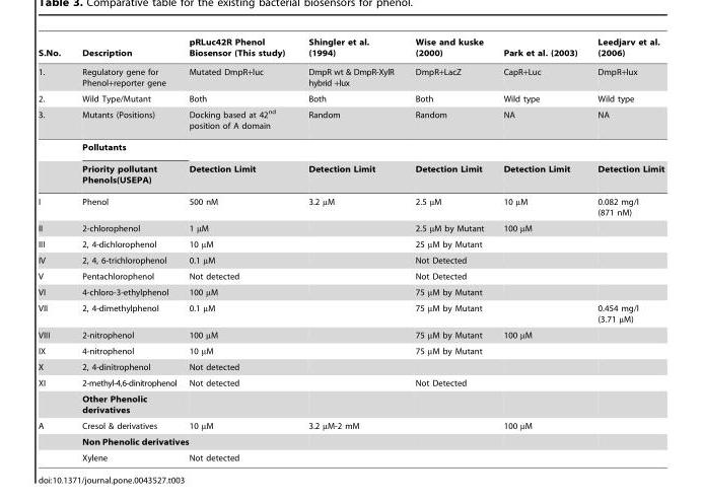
<table><thead><tr><td>S.No.</td><td>Description</td><td>pRLuc42R Phenol Biosensor (This study)</td><td>Shingler et al. (1994)</td><td>Wise and kuske (2000)</td><td>Park et al. (2003)</td><td>Leedjarv et al. (2006)</td></tr></thead><tbody><tr><td>1.</td><td>Regulatory gene for Phenol+reporter gene</td><td>Mutated DmpR+luc</td><td>DmpR wt &amp; DmpR-XylR hybrid +lux</td><td>DmpR+LacZ</td><td>CapR+Luc</td><td>DmpR+lux</td></tr><tr><td>2.</td><td>Wild Type/Mutant</td><td>Both</td><td>Both</td><td>Both</td><td>Wild type</td><td>Wild type</td></tr><tr><td rowspan="3">3.</td><td>Mutants (Positions)</td><td>Docking based at 42<sup>nd</sup> position of A domain</td><td>Random</td><td>Random</td><td>NA</td><td>NA</td></tr><tr><td>Pollutants</td><td></td><td></td><td></td><td></td><td></td></tr><tr><td>Priority pollutant Phenols(USEPA)</td><td>Detection Limit</td><td>Detection Limit</td><td>Detection Limit</td><td>Detection Limit</td><td>Detection Limit</td></tr><tr><td>I</td><td>Phenol</td><td>500 nM</td><td>3.2 µM</td><td>2.5 µM</td><td>10 µM</td><td>0.082 mg/l (871 nM)</td></tr><tr><td>II</td><td>2-chlorophenol</td><td>1 µM</td><td></td><td>2.5 µM by Mutant</td><td>100 µM</td><td></td></tr><tr><td>III</td><td>2, 4-dichlorophenol</td><td>10 µM</td><td></td><td>25 µM by Mutant</td><td></td><td></td></tr><tr><td>IV</td><td>2, 4, 6-trichlorophenol</td><td>0.1 µM</td><td></td><td>Not Detected</td><td></td><td></td></tr><tr><td>V</td><td>Pentachlorophenol</td><td>Not detected</td><td></td><td>Not Detected</td><td></td><td></td></tr><tr><td>VI</td><td>4-chloro-3-ethylphenol</td><td>100 µM</td><td></td><td>75 µM by Mutant</td><td></td><td></td></tr><tr><td>VII</td><td>2, 4-dimethylphenol</td><td>0.1 µM</td><td></td><td>75 µM by Mutant</td><td></td><td>0.454 mg/l (3.71 µM)</td></tr><tr><td>VIII</td><td>2-nitrophenol</td><td>100 µM</td><td></td><td>75 µM by Mutant</td><td>100 µM</td><td></td></tr><tr><td>IX</td><td>4-nitrophenol</td><td>10 µM</td><td></td><td>75 µM by Mutant</td><td></td><td></td></tr><tr><td>X</td><td>2, 4-dinitrophenol</td><td>Not detected</td><td></td><td></td><td></td><td></td></tr><tr><td rowspan="2">XI</td><td>2-methyl-4,6-dinitrophenol</td><td>Not detected</td><td></td><td>Not Detected</td><td></td><td></td></tr><tr><td>Other Phenolic derivatives</td><td></td><td></td><td></td><td></td><td></td></tr><tr><td rowspan="3">A</td><td>Cresol &amp; derivatives</td><td>10 µM</td><td>3.2 µM-2 mM</td><td></td><td>100 µM</td><td></td></tr><tr><td>Non Phenolic derivatives</td><td></td><td></td><td></td><td></td><td></td></tr><tr><td>Xylene</td><td>Not detected</td><td></td><td></td><td></td><td></td></tr></tbody></table>